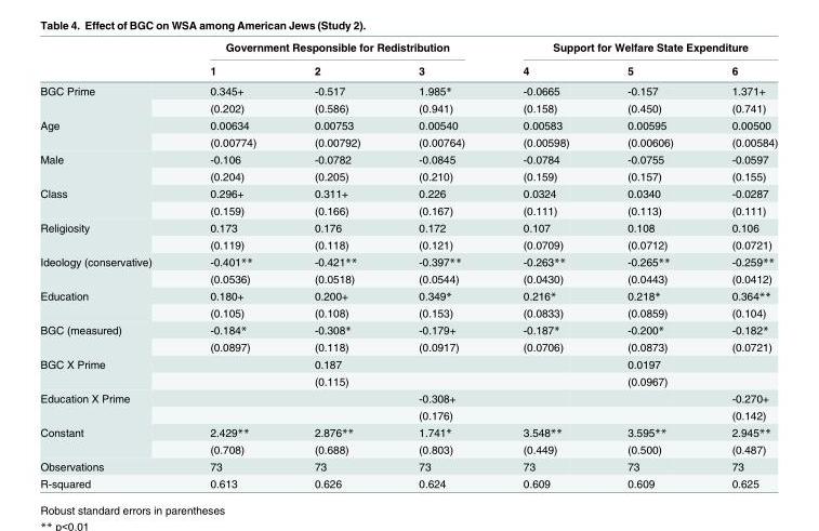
<table><thead><tr><td rowspan="2"></td><td colspan="3">Government Responsible for Redistribution</td><td colspan="3">Support for Welfare State Expenditure</td></tr><tr><td>1</td><td>2</td><td>3</td><td>4</td><td>5</td><td>6</td></tr></thead><tbody><tr><td rowspan="2">BGC Prime</td><td>0.345+</td><td>-0.517</td><td>1.985*</td><td>-0.0665</td><td>-0.157</td><td>1.371+</td></tr><tr><td>(0.202)</td><td>(0.586)</td><td>(0.941)</td><td>(0.158)</td><td>(0.450)</td><td>(0.741)</td></tr><tr><td rowspan="2">Age</td><td>0.00634</td><td>0.00753</td><td>0.00540</td><td>0.00583</td><td>0.00595</td><td>0.00500</td></tr><tr><td>(0.00774)</td><td>(0.00792)</td><td>(0.00764)</td><td>(0.00598)</td><td>(0.00606)</td><td>(0.00584)</td></tr><tr><td rowspan="2">Male</td><td>-0.106</td><td>-0.0782</td><td>-0.0845</td><td>-0.0784</td><td>-0.0755</td><td>-0.0597</td></tr><tr><td>(0.204)</td><td>(0.205)</td><td>(0.210)</td><td>(0.159)</td><td>(0.157)</td><td>(0.155)</td></tr><tr><td rowspan="2">Class</td><td>0.296+</td><td>0.311+</td><td>0.226</td><td>0.0324</td><td>0.0340</td><td>-0.0287</td></tr><tr><td>(0.159)</td><td>(0.166)</td><td>(0.167)</td><td>(0.111)</td><td>(0.113)</td><td>(0.111)</td></tr><tr><td rowspan="2">Religiosity</td><td>0.173</td><td>0.176</td><td>0.172</td><td>0.107</td><td>0.108</td><td>0.106</td></tr><tr><td>(0.119)</td><td>(0.118)</td><td>(0.121)</td><td>(0.0709)</td><td>(0.0712)</td><td>(0.0721)</td></tr><tr><td rowspan="2">Ideology (conservative)</td><td>-0.401**</td><td>-0.421**</td><td>-0.397**</td><td>-0.263**</td><td>-0.265**</td><td>-0.259**</td></tr><tr><td>(0.0536)</td><td>(0.0518)</td><td>(0.0544)</td><td>(0.0430)</td><td>(0.0443)</td><td>(0.0412)</td></tr><tr><td rowspan="2">Education</td><td>0.180+</td><td>0.200+</td><td>0.349*</td><td>0.216*</td><td>0.218*</td><td>0.364**</td></tr><tr><td>(0.105)</td><td>(0.108)</td><td>(0.153)</td><td>(0.0833)</td><td>(0.0859)</td><td>(0.104)</td></tr><tr><td rowspan="2">BGC (measured)</td><td>-0.184*</td><td>-0.308*</td><td>-0.179+</td><td>-0.187*</td><td>-0.200*</td><td>-0.182*</td></tr><tr><td>(0.0897)</td><td>(0.118)</td><td>(0.0917)</td><td>(0.0706)</td><td>(0.0873)</td><td>(0.0721)</td></tr><tr><td rowspan="2">BGC X Prime</td><td></td><td>0.187</td><td></td><td></td><td>0.0197</td><td></td></tr><tr><td></td><td>(0.115)</td><td></td><td></td><td>(0.0967)</td><td></td></tr><tr><td rowspan="2">Education X Prime</td><td></td><td></td><td>-0.308+</td><td></td><td></td><td>-0.270+</td></tr><tr><td></td><td></td><td>(0.176)</td><td></td><td></td><td>(0.142)</td></tr><tr><td rowspan="2">Constant</td><td>2.429**</td><td>2.876**</td><td>1.741*</td><td>3.548**</td><td>3.595**</td><td>2.945**</td></tr><tr><td>(0.708)</td><td>(0.688)</td><td>(0.803)</td><td>(0.449)</td><td>(0.500)</td><td>(0.487)</td></tr><tr><td>Observations</td><td>73</td><td>73</td><td>73</td><td>73</td><td>73</td><td>73</td></tr><tr><td>R-squared</td><td>0.613</td><td>0.626</td><td>0.624</td><td>0.609</td><td>0.609</td><td>0.625</td></tr></tbody></table>